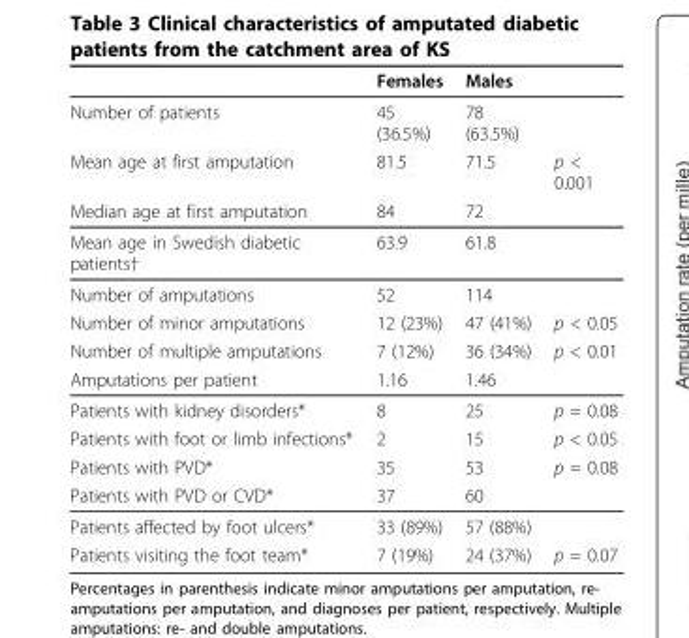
<table><thead><tr><td></td><td>Females</td><td>Males</td><td></td></tr></thead><tbody><tr><td>Number of patients</td><td>45 (36.5%)</td><td>78 (63.5%)</td><td></td></tr><tr><td>Mean age at first amputation</td><td>81.5</td><td>71.5</td><td>p &lt; 0.001</td></tr><tr><td>Median age at first amputation</td><td>84</td><td>72</td><td></td></tr><tr><td>Mean age in Swedish diabetic patients†</td><td>63.9</td><td>61.8</td><td></td></tr><tr><td>Number of amputations</td><td>52</td><td>114</td><td></td></tr><tr><td>Number of minor amputations</td><td>12 (23%)</td><td>47 (41%)</td><td>p &lt; 0.05</td></tr><tr><td>Number of multiple amputations</td><td>7 (12%)</td><td>36 (34%)</td><td>p &lt; 0.01</td></tr><tr><td>Amputations per patient</td><td>1.16</td><td>1.46</td><td></td></tr><tr><td>Patients with kidney disorders*</td><td>8</td><td>25</td><td>p = 0.08</td></tr><tr><td>Patients with foot or limb infections*</td><td>2</td><td>15</td><td>p &lt; 0.05</td></tr><tr><td>Patients with PVD*</td><td>35</td><td>53</td><td>p = 0.08</td></tr><tr><td>Patients with PVD or CVD*</td><td>37</td><td>60</td><td></td></tr><tr><td>Patients affected by foot ulcers*</td><td>33 (89%)</td><td>57 (88%)</td><td></td></tr><tr><td>Patients visiting the foot team*</td><td>7 (19%)</td><td>24 (37%)</td><td>p = 0.07</td></tr></tbody></table>